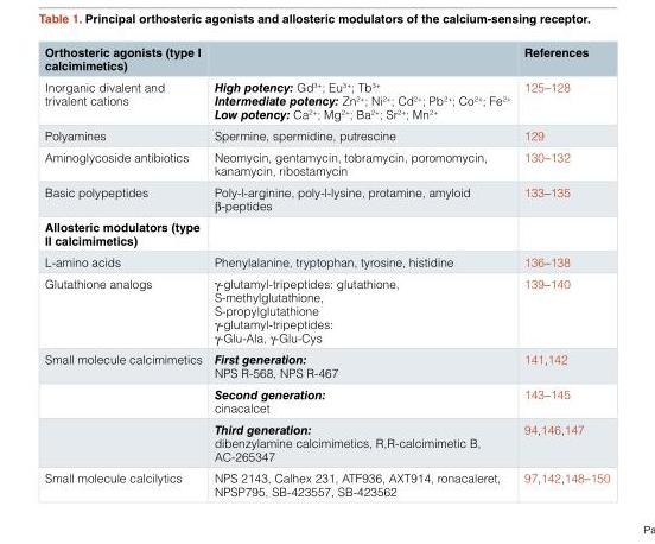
<table><thead><tr><td>Orthosteric agonists (type I calcimimetics)</td><td></td><td>References</td></tr></thead><tbody><tr><td>Inorganic divalent and trivalent cations</td><td>High potency: Gd<sup>3+</sup>; Eu<sup>3+</sup>; Tb<sup>3+</sup> Intermediate potency: Zn<sup>2+</sup>; Ni<sup>2+</sup>; Cd<sup>2+</sup>; Pb<sup>2+</sup>; Co<sup>2+</sup>; Fe<sup>2+</sup> Low potency: Ca<sup>2+</sup>; Mg<sup>2+</sup>; Ba<sup>2+</sup>; Sr<sup>2+</sup>; Mn<sup>2+</sup></td><td>125–128</td></tr><tr><td>Polyamines</td><td>Spermine, spermidine, putrescine</td><td>129</td></tr><tr><td>Aminoglycoside antibiotics</td><td>Neomycin, gentamycin, tobramycin, poromomycin, kanamycin, ribostamycin</td><td>130–132</td></tr><tr><td>Basic polypeptides</td><td>Poly-l-arginine, poly-l-lysine, protamine, amyloid β-peptides</td><td>133–135</td></tr><tr><td colspan="3">Allosteric modulators (type II calcimimetics)</td></tr><tr><td>L-amino acids</td><td>Phenylalanine, tryptophan, tyrosine, histidine</td><td>136–138</td></tr><tr><td>Glutathione analogs</td><td>γ-glutamyl-tripeptides: glutathione, S-methylglutathione, S-propylglutathione γ-glutamyl-tripeptides: γ-Glu-Ala, γ-Glu-Cys</td><td>139–140</td></tr><tr><td rowspan="3">Small molecule calcimimetics</td><td>First generation: NPS R-568, NPS R-467</td><td>141,142</td></tr><tr><td>Second generation: cinacalcet</td><td>143–145</td></tr><tr><td>Third generation: dibenzylamine calcimimetics, R,R-calcimimetic B, AC-265347</td><td>94,146,147</td></tr><tr><td>Small molecule calcilytics</td><td>NPS 2143, Calhex 231, ATF936, AXT914, ronacaleret, NPSP795, SB-423557, SB-423562</td><td>97,142,148–150</td></tr></tbody></table>